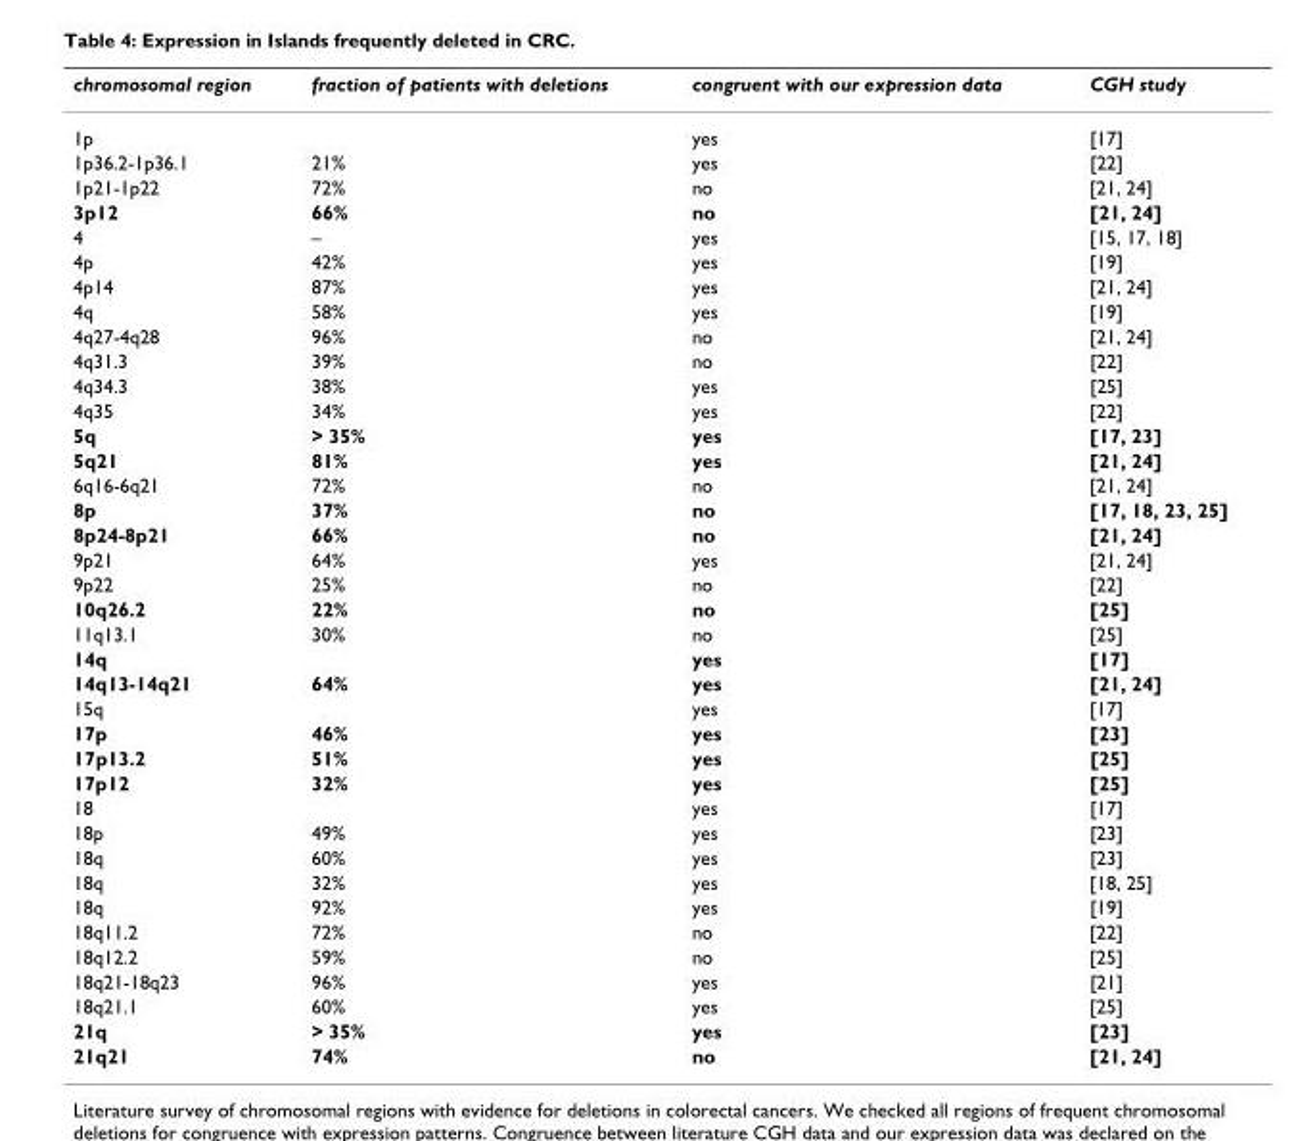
<table><thead><tr><td>chromosomal region</td><td>fraction of patients with deletions</td><td>congruent with our expression data</td><td>CGH study</td></tr></thead><tbody><tr><td>1p</td><td></td><td>yes</td><td>[17]</td></tr><tr><td>1p36.2-1p36.1</td><td>21%</td><td>yes</td><td>[22]</td></tr><tr><td>1p21-1p22</td><td>72%</td><td>no</td><td>[21, 24]</td></tr><tr><td>3p12</td><td>66%</td><td>no</td><td>[21, 24]</td></tr><tr><td>4</td><td>–</td><td>yes</td><td>[15, 17, 18]</td></tr><tr><td>4p</td><td>42%</td><td>yes</td><td>[19]</td></tr><tr><td>4p14</td><td>87%</td><td>yes</td><td>[21, 24]</td></tr><tr><td>4q</td><td>58%</td><td>yes</td><td>[19]</td></tr><tr><td>4q27-4q28</td><td>96%</td><td>no</td><td>[21, 24]</td></tr><tr><td>4q31.3</td><td>39%</td><td>no</td><td>[22]</td></tr><tr><td>4q34.3</td><td>38%</td><td>yes</td><td>[25]</td></tr><tr><td>4q35</td><td>34%</td><td>yes</td><td>[22]</td></tr><tr><td>5q</td><td>&gt; 35%</td><td>yes</td><td>[17, 23]</td></tr><tr><td>5q21</td><td>81%</td><td>yes</td><td>[21, 24]</td></tr><tr><td>6q16-6q21</td><td>72%</td><td>no</td><td>[21, 24]</td></tr><tr><td>8p</td><td>37%</td><td>no</td><td>[17, 18, 23, 25]</td></tr><tr><td>8p24-8p21</td><td>66%</td><td>no</td><td>[21, 24]</td></tr><tr><td>9p21</td><td>64%</td><td>yes</td><td>[21, 24]</td></tr><tr><td>9p22</td><td>25%</td><td>no</td><td>[22]</td></tr><tr><td>10q26.2</td><td>22%</td><td>no</td><td>[25]</td></tr><tr><td>11q13.1</td><td>30%</td><td>no</td><td>[25]</td></tr><tr><td>14q</td><td></td><td>yes</td><td>[17]</td></tr><tr><td>14q13-14q21</td><td>64%</td><td>yes</td><td>[21, 24]</td></tr><tr><td>15q</td><td></td><td>yes</td><td>[17]</td></tr><tr><td>17p</td><td>46%</td><td>yes</td><td>[23]</td></tr><tr><td>17p13.2</td><td>51%</td><td>yes</td><td>[25]</td></tr><tr><td>17p12</td><td>32%</td><td>yes</td><td>[25]</td></tr><tr><td>18</td><td></td><td>yes</td><td>[17]</td></tr><tr><td>18p</td><td>49%</td><td>yes</td><td>[23]</td></tr><tr><td>18q</td><td>60%</td><td>yes</td><td>[23]</td></tr><tr><td>18q</td><td>32%</td><td>yes</td><td>[18, 25]</td></tr><tr><td>18q</td><td>92%</td><td>yes</td><td>[19]</td></tr><tr><td>18q11.2</td><td>72%</td><td>no</td><td>[22]</td></tr><tr><td>18q12.2</td><td>59%</td><td>no</td><td>[25]</td></tr><tr><td>18q21-18q23</td><td>96%</td><td>yes</td><td>[21]</td></tr><tr><td>18q21.1</td><td>60%</td><td>yes</td><td>[25]</td></tr><tr><td>21q</td><td>&gt; 35%</td><td>yes</td><td>[23]</td></tr><tr><td>21q21</td><td>74%</td><td>no</td><td>[21, 24]</td></tr></tbody></table>